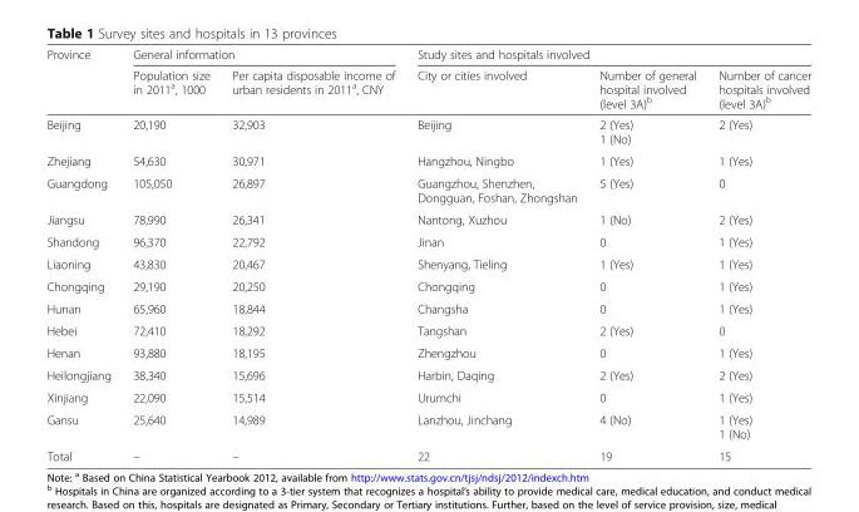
<table><thead><tr><td rowspan="2">Province</td><td colspan="2">General information</td><td colspan="3">Study sites and hospitals involved</td></tr><tr><td>Population size in 2011<sup>a</sup>, 1000</td><td>Per capita disposable income of urban residents in 2011<sup>a</sup>, CNY</td><td>City or cities involved</td><td>Number of general hospital involved (level 3A)<sup>b</sup></td><td>Number of cancer hospitals involved (level 3A)<sup>b</sup></td></tr></thead><tbody><tr><td>Beijing</td><td>20,190</td><td>32,903</td><td>Beijing</td><td>2 (Yes) 1 (No)</td><td>2 (Yes)</td></tr><tr><td>Zhejiang</td><td>54,630</td><td>30,971</td><td>Hangzhou, Ningbo</td><td>1 (Yes)</td><td>1 (Yes)</td></tr><tr><td>Guangdong</td><td>105,050</td><td>26,897</td><td>Guangzhou, Shenzhen, Dongguan, Foshan, Zhongshan</td><td>5 (Yes)</td><td>0</td></tr><tr><td>Jiangsu</td><td>78,990</td><td>26,341</td><td>Nantong, Xuzhou</td><td>1 (No)</td><td>2 (Yes)</td></tr><tr><td>Shandong</td><td>96,370</td><td>22,792</td><td>Jinan</td><td>0</td><td>1 (Yes)</td></tr><tr><td>Liaoning</td><td>43,830</td><td>20,467</td><td>Shenyang, Tieling</td><td>1 (Yes)</td><td>1 (Yes)</td></tr><tr><td>Chongqing</td><td>29,190</td><td>20,250</td><td>Chongqing</td><td>0</td><td>1 (Yes)</td></tr><tr><td>Hunan</td><td>65,960</td><td>18,844</td><td>Changsha</td><td>0</td><td>1 (Yes)</td></tr><tr><td>Hebei</td><td>72,410</td><td>18,292</td><td>Tangshan</td><td>2 (Yes)</td><td>0</td></tr><tr><td>Henan</td><td>93,880</td><td>18,195</td><td>Zhengzhou</td><td>0</td><td>1 (Yes)</td></tr><tr><td>Heilongjiang</td><td>38,340</td><td>15,696</td><td>Harbin, Daqing</td><td>2 (Yes)</td><td>2 (Yes)</td></tr><tr><td>Xinjiang</td><td>22,090</td><td>15,514</td><td>Urumchi</td><td>0</td><td>1 (Yes)</td></tr><tr><td>Gansu</td><td>25,640</td><td>14,989</td><td>Lanzhou, Jinchang</td><td>4 (No)</td><td>1 (Yes) 1 (No)</td></tr><tr><td>Total</td><td>–</td><td>–</td><td>22</td><td>19</td><td>15</td></tr></tbody></table>